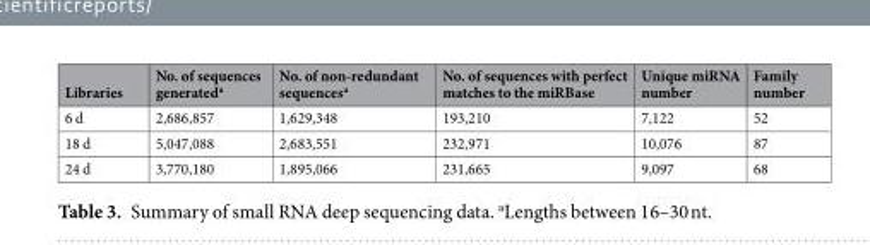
<table><thead><tr><td>Libraries</td><td>No. of sequences generated<sup>a</sup></td><td>No. of non-redundant sequences<sup>a</sup></td><td>No. of sequences with perfect matches to the miRBase</td><td>Unique miRNA number</td><td>Family number</td></tr></thead><tbody><tr><td>6 d</td><td>2,686,857</td><td>1,629,348</td><td>193,210</td><td>7,122</td><td>52</td></tr><tr><td>18 d</td><td>5,047,088</td><td>2,683,551</td><td>232,971</td><td>10,076</td><td>87</td></tr><tr><td>24 d</td><td>3,770,180</td><td>1,895,066</td><td>231,665</td><td>9,097</td><td>68</td></tr></tbody></table>